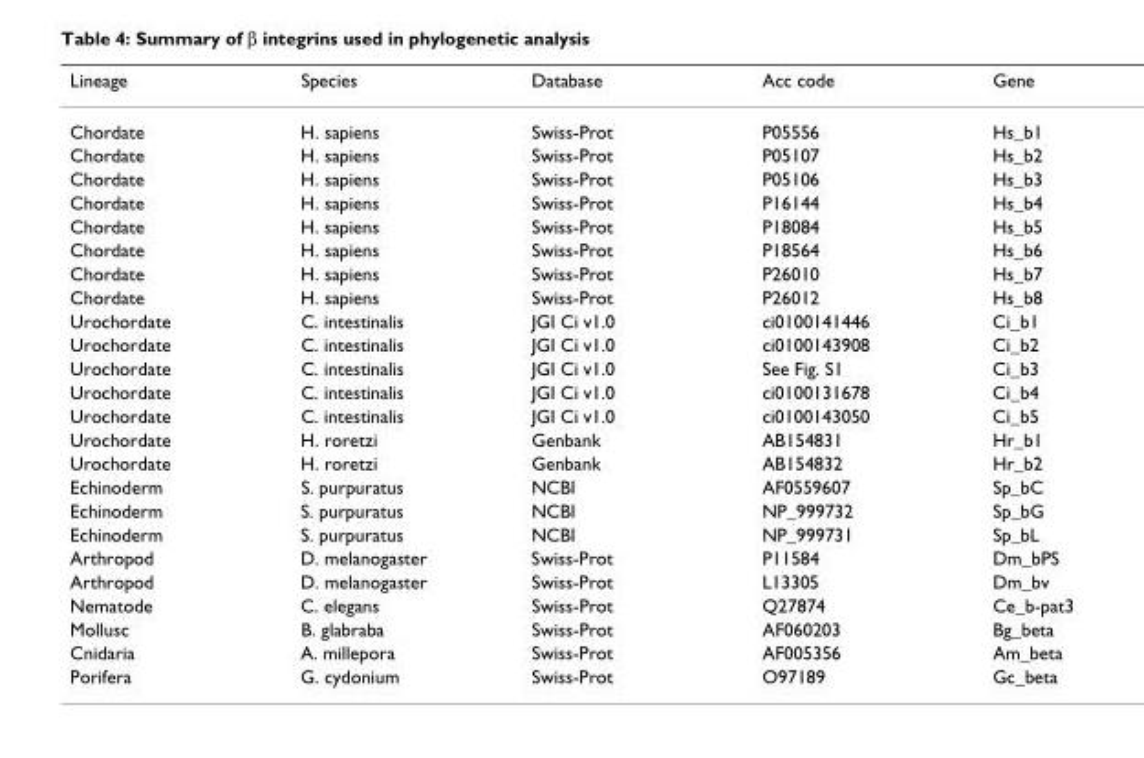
<table><thead><tr><td>Lineage</td><td>Species</td><td>Database</td><td>Acc code</td><td>Gene</td></tr></thead><tbody><tr><td>Chordate</td><td>H. sapiens</td><td>Swiss-Prot</td><td>P05556</td><td>Hs_b1</td></tr><tr><td>Chordate</td><td>H. sapiens</td><td>Swiss-Prot</td><td>P05107</td><td>Hs_b2</td></tr><tr><td>Chordate</td><td>H. sapiens</td><td>Swiss-Prot</td><td>P05106</td><td>Hs_b3</td></tr><tr><td>Chordate</td><td>H. sapiens</td><td>Swiss-Prot</td><td>P16144</td><td>Hs_b4</td></tr><tr><td>Chordate</td><td>H. sapiens</td><td>Swiss-Prot</td><td>P18084</td><td>Hs_b5</td></tr><tr><td>Chordate</td><td>H. sapiens</td><td>Swiss-Prot</td><td>P18564</td><td>Hs_b6</td></tr><tr><td>Chordate</td><td>H. sapiens</td><td>Swiss-Prot</td><td>P26010</td><td>Hs_b7</td></tr><tr><td>Chordate</td><td>H. sapiens</td><td>Swiss-Prot</td><td>P26012</td><td>Hs_b8</td></tr><tr><td>Urochordate</td><td>C. intestinalis</td><td>JGI Ci v1.0</td><td>ci0100141446</td><td>Ci_b1</td></tr><tr><td>Urochordate</td><td>C. intestinalis</td><td>JGI Ci v1.0</td><td>ci0100143908</td><td>Ci_b2</td></tr><tr><td>Urochordate</td><td>C. intestinalis</td><td>JGI Ci v1.0</td><td>See Fig. S1</td><td>Ci_b3</td></tr><tr><td>Urochordate</td><td>C. intestinalis</td><td>JGI Ci v1.0</td><td>ci0100131678</td><td>Ci_b4</td></tr><tr><td>Urochordate</td><td>C. intestinalis</td><td>JGI Ci v1.0</td><td>ci0100143050</td><td>Ci_b5</td></tr><tr><td>Urochordate</td><td>H. roretzi</td><td>Genbank</td><td>AB154831</td><td>Hr_b1</td></tr><tr><td>Urochordate</td><td>H. roretzi</td><td>Genbank</td><td>AB154832</td><td>Hr_b2</td></tr><tr><td>Echinoderm</td><td>S. purpuratus</td><td>NCBI</td><td>AF0559607</td><td>Sp_bC</td></tr><tr><td>Echinoderm</td><td>S. purpuratus</td><td>NCBI</td><td>NP_999732</td><td>Sp_bG</td></tr><tr><td>Echinoderm</td><td>S. purpuratus</td><td>NCBI</td><td>NP_999731</td><td>Sp_bL</td></tr><tr><td>Arthropod</td><td>D. melanogaster</td><td>Swiss-Prot</td><td>P11584</td><td>Dm_bPS</td></tr><tr><td>Arthropod</td><td>D. melanogaster</td><td>Swiss-Prot</td><td>L13305</td><td>Dm_bv</td></tr><tr><td>Nematode</td><td>C. elegans</td><td>Swiss-Prot</td><td>Q27874</td><td>Ce_b-pat3</td></tr><tr><td>Mollusc</td><td>B. glabraba</td><td>Swiss-Prot</td><td>AF060203</td><td>Bg_beta</td></tr><tr><td>Cnidaria</td><td>A. millepora</td><td>Swiss-Prot</td><td>AF005356</td><td>Am_beta</td></tr><tr><td>Porifera</td><td>G. cydonium</td><td>Swiss-Prot</td><td>O97189</td><td>Gc_beta</td></tr></tbody></table>